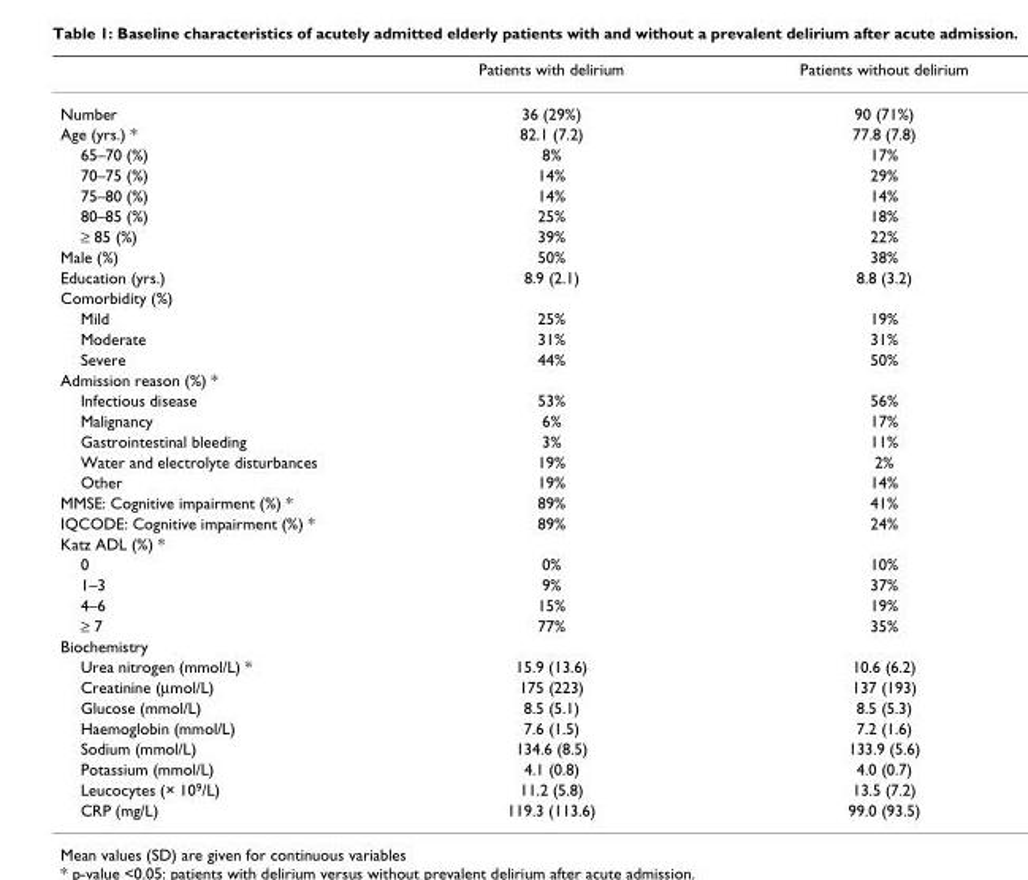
<table><thead><tr><td></td><td>Patients with delirium</td><td>Patients without delirium</td></tr></thead><tbody><tr><td>Number</td><td>36 (29%)</td><td>90 (71%)</td></tr><tr><td>Age (yrs.) *</td><td>82.1 (7.2)</td><td>77.8 (7.8)</td></tr><tr><td>65–70 (%)</td><td>8%</td><td>17%</td></tr><tr><td>70–75 (%)</td><td>14%</td><td>29%</td></tr><tr><td>75–80 (%)</td><td>14%</td><td>14%</td></tr><tr><td>80–85 (%)</td><td>25%</td><td>18%</td></tr><tr><td>≥ 85 (%)</td><td>39%</td><td>22%</td></tr><tr><td>Male (%)</td><td>50%</td><td>38%</td></tr><tr><td>Education (yrs.)</td><td>8.9 (2.1)</td><td>8.8 (3.2)</td></tr><tr><td colspan="3">Comorbidity (%)</td></tr><tr><td>Mild</td><td>25%</td><td>19%</td></tr><tr><td>Moderate</td><td>31%</td><td>31%</td></tr><tr><td>Severe</td><td>44%</td><td>50%</td></tr><tr><td colspan="3">Admission reason (%) *</td></tr><tr><td>Infectious disease</td><td>53%</td><td>56%</td></tr><tr><td>Malignancy</td><td>6%</td><td>17%</td></tr><tr><td>Gastrointestinal bleeding</td><td>3%</td><td>11%</td></tr><tr><td>Water and electrolyte disturbances</td><td>19%</td><td>2%</td></tr><tr><td>Other</td><td>19%</td><td>14%</td></tr><tr><td>MMSE: Cognitive impairment (%) *</td><td>89%</td><td>41%</td></tr><tr><td>IQCODE: Cognitive impairment (%) *</td><td>89%</td><td>24%</td></tr><tr><td colspan="3">Katz ADL (%) *</td></tr><tr><td>0</td><td>0%</td><td>10%</td></tr><tr><td>1–3</td><td>9%</td><td>37%</td></tr><tr><td>4–6</td><td>15%</td><td>19%</td></tr><tr><td>≥ 7</td><td>77%</td><td>35%</td></tr><tr><td colspan="3">Biochemistry</td></tr><tr><td>Urea nitrogen (mmol/L) *</td><td>15.9 (13.6)</td><td>10.6 (6.2)</td></tr><tr><td>Creatinine (µmol/L)</td><td>175 (223)</td><td>137 (193)</td></tr><tr><td>Glucose (mmol/L)</td><td>8.5 (5.1)</td><td>8.5 (5.3)</td></tr><tr><td>Haemoglobin (mmol/L)</td><td>7.6 (1.5)</td><td>7.2 (1.6)</td></tr><tr><td>Sodium (mmol/L)</td><td>134.6 (8.5)</td><td>133.9 (5.6)</td></tr><tr><td>Potassium (mmol/L)</td><td>4.1 (0.8)</td><td>4.0 (0.7)</td></tr><tr><td>Leucocytes (× 10<sup>9</sup>/L)</td><td>11.2 (5.8)</td><td>13.5 (7.2)</td></tr><tr><td>CRP (mg/L)</td><td>119.3 (113.6)</td><td>99.0 (93.5)</td></tr></tbody></table>